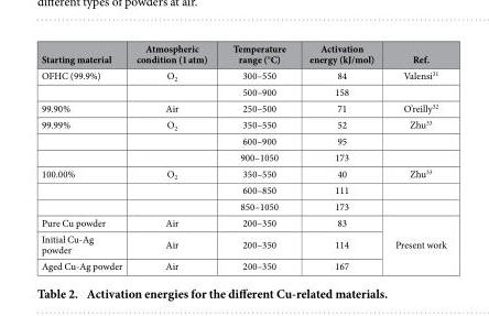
<table><thead><tr><td>Starting material</td><td>Atmospheric condition (1 atm)</td><td>Temperature range (°C)</td><td>Activation energy (kJ/mol)</td><td>Ref.</td></tr></thead><tbody><tr><td rowspan="2">OFHC (99.9%)</td><td>O<sub>2</sub></td><td>300–550</td><td>84</td><td>Valensi<sup>31</sup></td></tr><tr><td></td><td>500–900</td><td>158</td><td></td></tr><tr><td>99.90%</td><td>Air</td><td>250–500</td><td>71</td><td>O’reilly<sup>32</sup></td></tr><tr><td rowspan="3">99.99%</td><td>O<sub>2</sub></td><td>350–550</td><td>52</td><td>Zhu<sup>33</sup></td></tr><tr><td></td><td>600–900</td><td>95</td><td></td></tr><tr><td></td><td>900–1050</td><td>173</td><td></td></tr><tr><td rowspan="3">100.00%</td><td>O<sub>2</sub></td><td>350–550</td><td>40</td><td>Zhu<sup>33</sup></td></tr><tr><td></td><td>600–850</td><td>111</td><td></td></tr><tr><td></td><td>850–1050</td><td>173</td><td></td></tr><tr><td>Pure Cu powder</td><td>Air</td><td>200–350</td><td>83</td><td rowspan="3">Present work</td></tr><tr><td>Initial Cu-Ag powder</td><td>Air</td><td>200–350</td><td>114</td></tr><tr><td>Aged Cu-Ag powder</td><td>Air</td><td>200–350</td><td>167</td></tr></tbody></table>